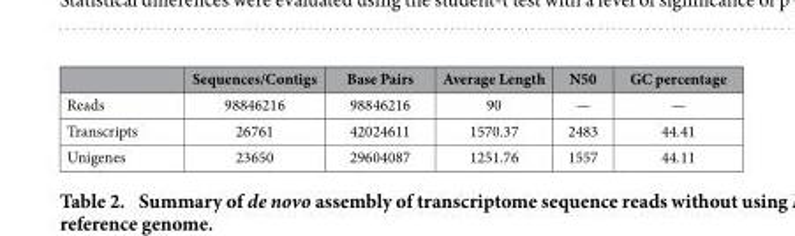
<table><thead><tr><td></td><td>Sequences/Contigs</td><td>Base Pairs</td><td>Average Length</td><td>N50</td><td>GC percentage</td></tr></thead><tbody><tr><td>Reads</td><td>98846216</td><td>98846216</td><td>90</td><td>—</td><td>—</td></tr><tr><td>Transcripts</td><td>26761</td><td>42024611</td><td>1570.37</td><td>2483</td><td>44.41</td></tr><tr><td>Unigenes</td><td>23650</td><td>29604087</td><td>1251.76</td><td>1557</td><td>44.11</td></tr></tbody></table>